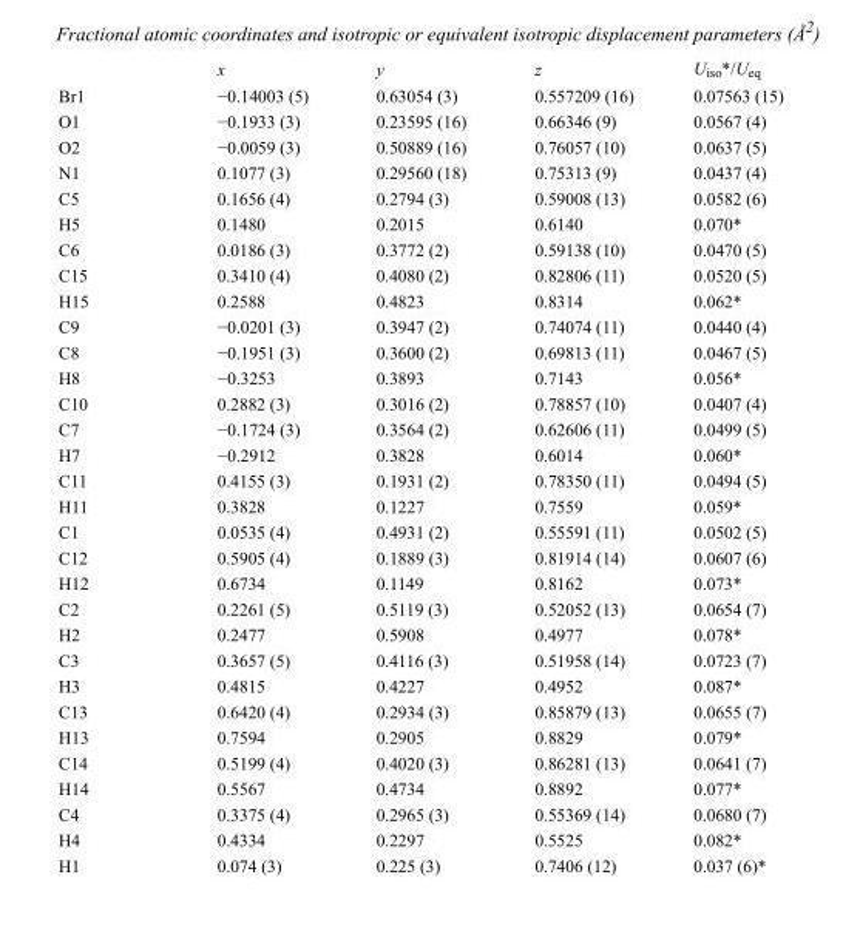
<table><thead><tr><td></td><td>x</td><td>y</td><td>z</td><td>U<sub>iso</sub>*/U<sub>eq</sub></td></tr></thead><tbody><tr><td>Br1</td><td>−0.14003 (5)</td><td>0.63054 (3)</td><td>0.557209 (16)</td><td>0.07563 (15)</td></tr><tr><td>O1</td><td>−0.1933 (3)</td><td>0.23595 (16)</td><td>0.66346 (9)</td><td>0.0567 (4)</td></tr><tr><td>O2</td><td>−0.0059 (3)</td><td>0.50889 (16)</td><td>0.76057 (10)</td><td>0.0637 (5)</td></tr><tr><td>N1</td><td>0.1077 (3)</td><td>0.29560 (18)</td><td>0.75313 (9)</td><td>0.0437 (4)</td></tr><tr><td>C5</td><td>0.1656 (4)</td><td>0.2794 (3)</td><td>0.59008 (13)</td><td>0.0582 (6)</td></tr><tr><td>H5</td><td>0.1480</td><td>0.2015</td><td>0.6140</td><td>0.070*</td></tr><tr><td>C6</td><td>0.0186 (3)</td><td>0.3772 (2)</td><td>0.59138 (10)</td><td>0.0470 (5)</td></tr><tr><td>C15</td><td>0.3410 (4)</td><td>0.4080 (2)</td><td>0.82806 (11)</td><td>0.0520 (5)</td></tr><tr><td>H15</td><td>0.2588</td><td>0.4823</td><td>0.8314</td><td>0.062*</td></tr><tr><td>C9</td><td>−0.0201 (3)</td><td>0.3947 (2)</td><td>0.74074 (11)</td><td>0.0440 (4)</td></tr><tr><td>C8</td><td>−0.1951 (3)</td><td>0.3600 (2)</td><td>0.69813 (11)</td><td>0.0467 (5)</td></tr><tr><td>H8</td><td>−0.3253</td><td>0.3893</td><td>0.7143</td><td>0.056*</td></tr><tr><td>C10</td><td>0.2882 (3)</td><td>0.3016 (2)</td><td>0.78857 (10)</td><td>0.0407 (4)</td></tr><tr><td>C7</td><td>−0.1724 (3)</td><td>0.3564 (2)</td><td>0.62606 (11)</td><td>0.0499 (5)</td></tr><tr><td>H7</td><td>−0.2912</td><td>0.3828</td><td>0.6014</td><td>0.060*</td></tr><tr><td>C11</td><td>0.4155 (3)</td><td>0.1931 (2)</td><td>0.78350 (11)</td><td>0.0494 (5)</td></tr><tr><td>H11</td><td>0.3828</td><td>0.1227</td><td>0.7559</td><td>0.059*</td></tr><tr><td>C1</td><td>0.0535 (4)</td><td>0.4931 (2)</td><td>0.55591 (11)</td><td>0.0502 (5)</td></tr><tr><td>C12</td><td>0.5905 (4)</td><td>0.1889 (3)</td><td>0.81914 (14)</td><td>0.0607 (6)</td></tr><tr><td>H12</td><td>0.6734</td><td>0.1149</td><td>0.8162</td><td>0.073*</td></tr><tr><td>C2</td><td>0.2261 (5)</td><td>0.5119 (3)</td><td>0.52052 (13)</td><td>0.0654 (7)</td></tr><tr><td>H2</td><td>0.2477</td><td>0.5908</td><td>0.4977</td><td>0.078*</td></tr><tr><td>C3</td><td>0.3657 (5)</td><td>0.4116 (3)</td><td>0.51958 (14)</td><td>0.0723 (7)</td></tr><tr><td>H3</td><td>0.4815</td><td>0.4227</td><td>0.4952</td><td>0.087*</td></tr><tr><td>C13</td><td>0.6420 (4)</td><td>0.2934 (3)</td><td>0.85879 (13)</td><td>0.0655 (7)</td></tr><tr><td>H13</td><td>0.7594</td><td>0.2905</td><td>0.8829</td><td>0.079*</td></tr><tr><td>C14</td><td>0.5199 (4)</td><td>0.4020 (3)</td><td>0.86281 (13)</td><td>0.0641 (7)</td></tr><tr><td>H14</td><td>0.5567</td><td>0.4734</td><td>0.8892</td><td>0.077*</td></tr><tr><td>C4</td><td>0.3375 (4)</td><td>0.2965 (3)</td><td>0.55369 (14)</td><td>0.0680 (7)</td></tr><tr><td>H4</td><td>0.4334</td><td>0.2297</td><td>0.5525</td><td>0.082*</td></tr><tr><td>H1</td><td>0.074 (3)</td><td>0.225 (3)</td><td>0.7406 (12)</td><td>0.037 (6)*</td></tr></tbody></table>